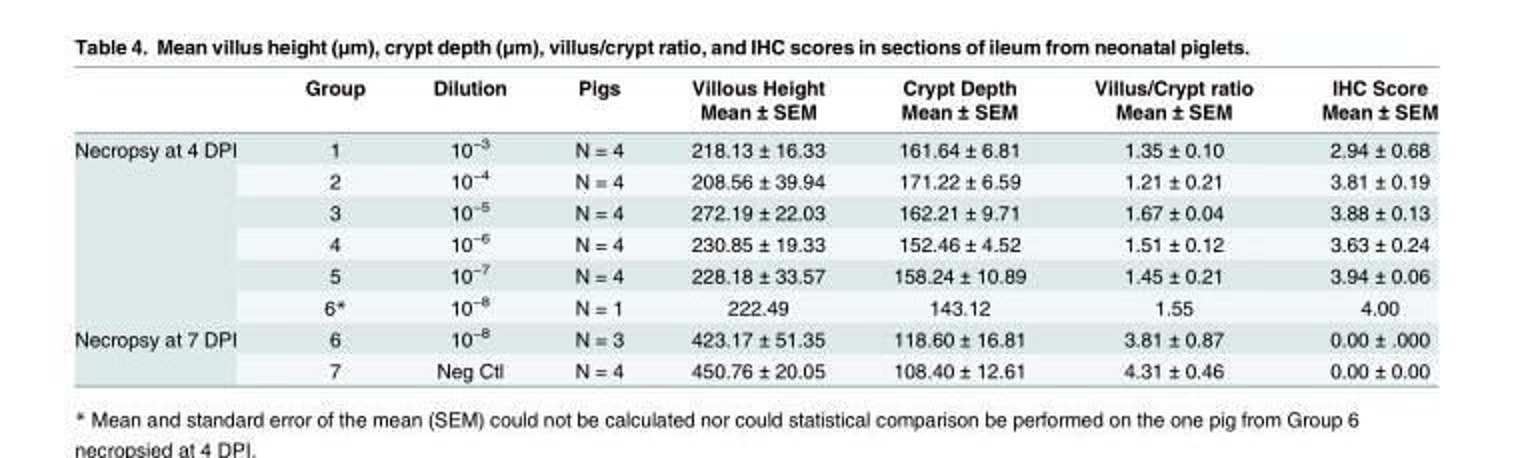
<table><thead><tr><td rowspan="2"></td><td rowspan="2">Group</td><td rowspan="2">Dilution</td><td rowspan="2">Pigs</td><td rowspan="2">Villous Height Mean ± SEM</td><td rowspan="2">Crypt Depth Mean ± SEM</td><td rowspan="2">Villus/Crypt ratio Mean ± SEM</td><td rowspan="2">IHC Score Mean ± SEM</td></tr><tr></tr></thead><tbody><tr><td rowspan="6">Necropsy at 4 DPI</td><td>1</td><td>10<sup>−3</sup></td><td>N = 4</td><td>218.13 ± 16.33</td><td>161.64 ± 6.81</td><td>1.35 ± 0.10</td><td>2.94 ± 0.68</td></tr><tr><td>2</td><td>10<sup>−4</sup></td><td>N = 4</td><td>208.56 ± 39.94</td><td>171.22 ± 6.59</td><td>1.21 ± 0.21</td><td>3.81 ± 0.19</td></tr><tr><td>3</td><td>10<sup>−5</sup></td><td>N = 4</td><td>272.19 ± 22.03</td><td>162.21 ± 9.71</td><td>1.67 ± 0.04</td><td>3.88 ± 0.13</td></tr><tr><td>4</td><td>10<sup>−6</sup></td><td>N = 4</td><td>230.85 ± 19.33</td><td>152.46 ± 4.52</td><td>1.51 ± 0.12</td><td>3.63 ± 0.24</td></tr><tr><td>5</td><td>10<sup>−7</sup></td><td>N = 4</td><td>228.18 ± 33.57</td><td>158.24 ± 10.89</td><td>1.45 ± 0.21</td><td>3.94 ± 0.06</td></tr><tr><td>6*</td><td>10<sup>−8</sup></td><td>N = 1</td><td>222.49</td><td>143.12</td><td>1.55</td><td>4.00</td></tr><tr><td rowspan="2">Necropsy at 7 DPI</td><td>6</td><td>10<sup>−8</sup></td><td>N = 3</td><td>423.17 ± 51.35</td><td>118.60 ± 16.81</td><td>3.81 ± 0.87</td><td>0.00 ± .000</td></tr><tr><td>7</td><td>Neg Ctl</td><td>N = 4</td><td>450.76 ± 20.05</td><td>108.40 ± 12.61</td><td>4.31 ± 0.46</td><td>0.00 ± 0.00</td></tr></tbody></table>